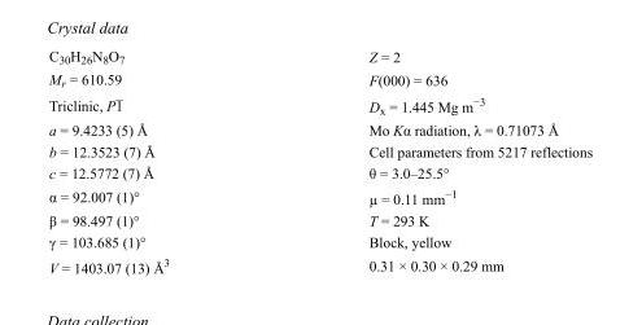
<table><tbody><tr><td>C<sub>30</sub>H<sub>26</sub>N<sub>8</sub>O<sub>7</sub></td><td>Z = 2</td></tr><tr><td>M<sub>r</sub> = 610.59</td><td>F(000) = 636</td></tr><tr><td>Triclinic, P1</td><td>D<sub>x</sub> = 1.445 Mg m<sup>−3</sup></td></tr><tr><td>a = 9.4233 (5) Å</td><td>Mo Kα radiation, λ = 0.71073 Å</td></tr><tr><td>b = 12.3523 (7) Å</td><td>Cell parameters from 5217 reflections</td></tr><tr><td>c = 12.5772 (7) Å</td><td>θ = 3.0–25.5°</td></tr><tr><td>α = 92.007 (1)°</td><td>µ = 0.11 mm<sup>−1</sup></td></tr><tr><td>β = 98.497 (1)°</td><td>T = 293 K</td></tr><tr><td>γ = 103.685 (1)°</td><td>Block, yellow</td></tr><tr><td>V = 1403.07 (13) Å<sup>3</sup></td><td>0.31 × 0.30 × 0.29 mm</td></tr></tbody></table>